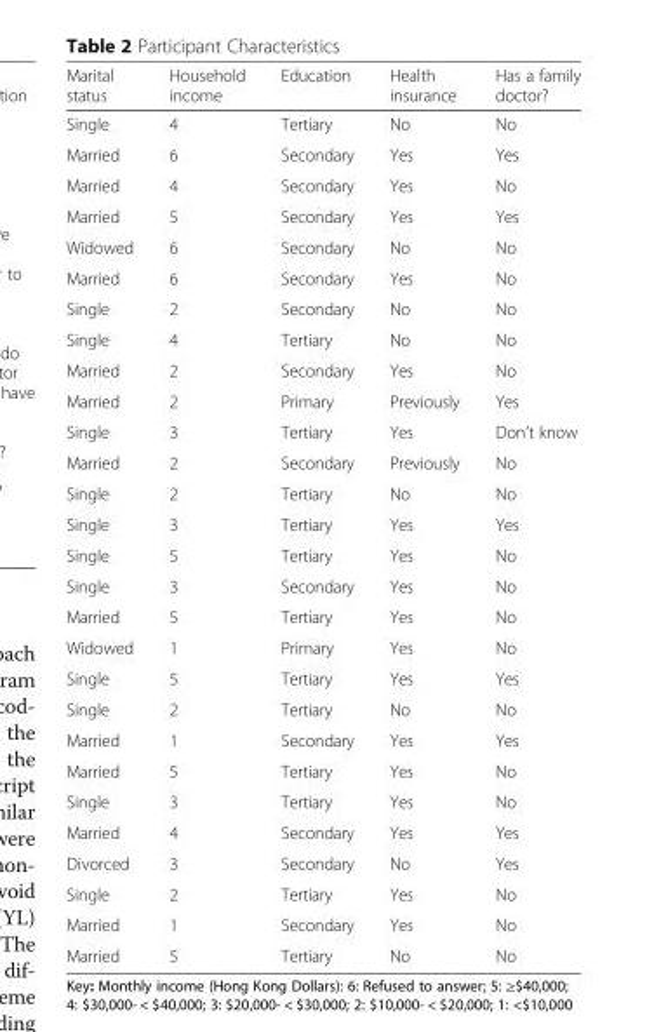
<table><thead><tr><td>Marital status</td><td>Household income</td><td>Education</td><td>Health insurance</td><td>Has a family doctor?</td></tr></thead><tbody><tr><td>Single</td><td>4</td><td>Tertiary</td><td>No</td><td>No</td></tr><tr><td>Married</td><td>6</td><td>Secondary</td><td>Yes</td><td>Yes</td></tr><tr><td>Married</td><td>4</td><td>Secondary</td><td>Yes</td><td>No</td></tr><tr><td>Married</td><td>5</td><td>Secondary</td><td>Yes</td><td>Yes</td></tr><tr><td>Widowed</td><td>6</td><td>Secondary</td><td>No</td><td>No</td></tr><tr><td>Married</td><td>6</td><td>Secondary</td><td>Yes</td><td>No</td></tr><tr><td>Single</td><td>2</td><td>Secondary</td><td>No</td><td>No</td></tr><tr><td>Single</td><td>4</td><td>Tertiary</td><td>No</td><td>No</td></tr><tr><td>Married</td><td>2</td><td>Secondary</td><td>Yes</td><td>No</td></tr><tr><td>Married</td><td>2</td><td>Primary</td><td>Previously</td><td>Yes</td></tr><tr><td>Single</td><td>3</td><td>Tertiary</td><td>Yes</td><td>Don’t know</td></tr><tr><td>Married</td><td>2</td><td>Secondary</td><td>Previously</td><td>No</td></tr><tr><td>Single</td><td>2</td><td>Tertiary</td><td>No</td><td>No</td></tr><tr><td>Single</td><td>3</td><td>Tertiary</td><td>Yes</td><td>Yes</td></tr><tr><td>Single</td><td>5</td><td>Tertiary</td><td>Yes</td><td>No</td></tr><tr><td>Single</td><td>3</td><td>Secondary</td><td>Yes</td><td>No</td></tr><tr><td>Married</td><td>5</td><td>Tertiary</td><td>Yes</td><td>No</td></tr><tr><td>Widowed</td><td>1</td><td>Primary</td><td>Yes</td><td>No</td></tr><tr><td>Single</td><td>5</td><td>Tertiary</td><td>Yes</td><td>Yes</td></tr><tr><td>Single</td><td>2</td><td>Tertiary</td><td>No</td><td>No</td></tr><tr><td>Married</td><td>1</td><td>Secondary</td><td>Yes</td><td>Yes</td></tr><tr><td>Married</td><td>5</td><td>Tertiary</td><td>Yes</td><td>No</td></tr><tr><td>Single</td><td>3</td><td>Tertiary</td><td>Yes</td><td>No</td></tr><tr><td>Married</td><td>4</td><td>Secondary</td><td>Yes</td><td>Yes</td></tr><tr><td>Divorced</td><td>3</td><td>Secondary</td><td>No</td><td>Yes</td></tr><tr><td>Single</td><td>2</td><td>Tertiary</td><td>Yes</td><td>No</td></tr><tr><td>Married</td><td>1</td><td>Secondary</td><td>Yes</td><td>No</td></tr><tr><td>Married</td><td>5</td><td>Tertiary</td><td>No</td><td>No</td></tr></tbody></table>